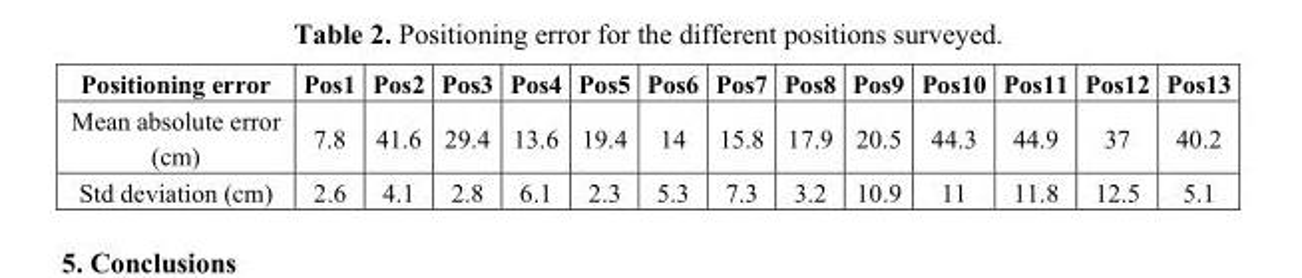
<table><thead><tr><td>Positioning error</td><td>Pos1</td><td>Pos2</td><td>Pos3</td><td>Pos4</td><td>Pos5</td><td>Pos6</td><td>Pos7</td><td>Pos8</td><td>Pos9</td><td>Pos10</td><td>Pos11</td><td>Pos12</td><td>Pos13</td></tr></thead><tbody><tr><td>Mean absolute error (cm)</td><td>7.8</td><td>41.6</td><td>29.4</td><td>13.6</td><td>19.4</td><td>14</td><td>15.8</td><td>17.9</td><td>20.5</td><td>44.3</td><td>44.9</td><td>37</td><td>40.2</td></tr><tr><td>Std deviation (cm)</td><td>2.6</td><td>4.1</td><td>2.8</td><td>6.1</td><td>2.3</td><td>5.3</td><td>7.3</td><td>3.2</td><td>10.9</td><td>11</td><td>11.8</td><td>12.5</td><td>5.1</td></tr></tbody></table>